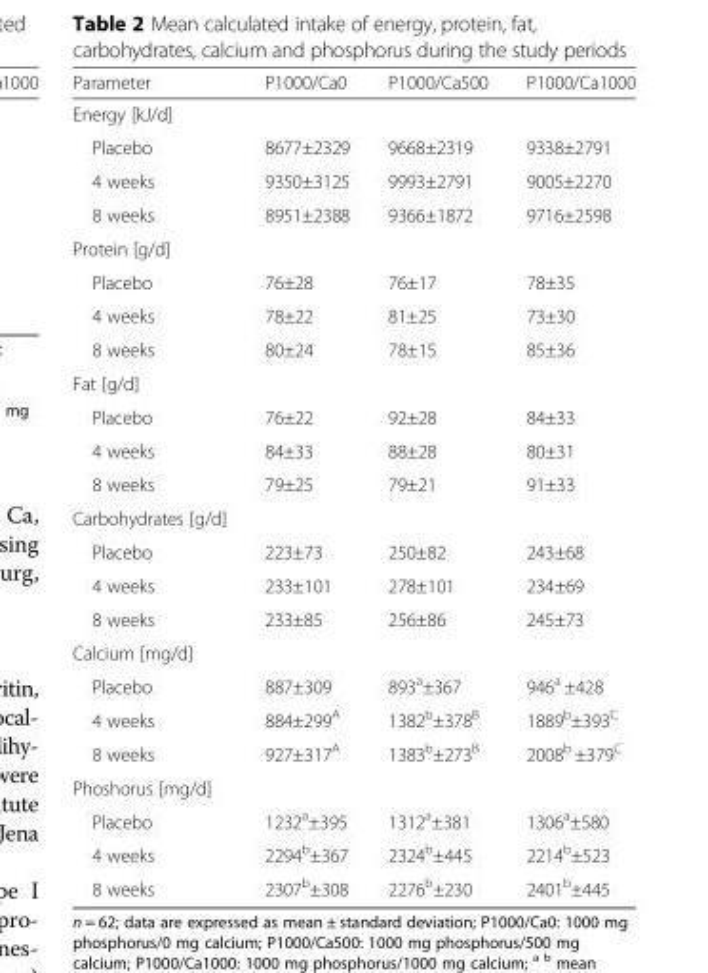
<table><thead><tr><td>Parameter</td><td>P1000/Ca0</td><td>P1000/Ca500</td><td>P1000/Ca1000</td></tr></thead><tbody><tr><td colspan="4">Energy [kJ/d]</td></tr><tr><td>Placebo</td><td>8677±2329</td><td>9668±2319</td><td>9338±2791</td></tr><tr><td>4 weeks</td><td>9350±3125</td><td>9993±2791</td><td>9005±2270</td></tr><tr><td>8 weeks</td><td>8951±2388</td><td>9366±1872</td><td>9716±2598</td></tr><tr><td colspan="4">Protein [g/d]</td></tr><tr><td>Placebo</td><td>76±28</td><td>76±17</td><td>78±35</td></tr><tr><td>4 weeks</td><td>78±22</td><td>81±25</td><td>73±30</td></tr><tr><td>8 weeks</td><td>80±24</td><td>78±15</td><td>85±36</td></tr><tr><td colspan="4">Fat [g/d]</td></tr><tr><td>Placebo</td><td>76±22</td><td>92±28</td><td>84±33</td></tr><tr><td>4 weeks</td><td>84±33</td><td>88±28</td><td>80±31</td></tr><tr><td>8 weeks</td><td>79±25</td><td>79±21</td><td>91±33</td></tr><tr><td colspan="4">Carbohydrates [g/d]</td></tr><tr><td>Placebo</td><td>223±73</td><td>250±82</td><td>243±68</td></tr><tr><td>4 weeks</td><td>233±101</td><td>278±101</td><td>234±69</td></tr><tr><td>8 weeks</td><td>233±85</td><td>256±86</td><td>245±73</td></tr><tr><td colspan="4">Calcium [mg/d]</td></tr><tr><td>Placebo</td><td>887±309</td><td>893<sup>a</sup>±367</td><td>946<sup>a</sup> ±428</td></tr><tr><td>4 weeks</td><td>884±299<sup>A</sup></td><td>1382<sup>b</sup>±378<sup>B</sup></td><td>1889<sup>b</sup>±393<sup>C</sup></td></tr><tr><td>8 weeks</td><td>927±317<sup>A</sup></td><td>1383<sup>b</sup>±273<sup>B</sup></td><td>2008<sup>b</sup> ±379<sup>C</sup></td></tr><tr><td colspan="4">Phoshorus [mg/d]</td></tr><tr><td>Placebo</td><td>1232<sup>a</sup>±395</td><td>1312<sup>a</sup>±381</td><td>1306<sup>a</sup>±580</td></tr><tr><td>4 weeks</td><td>2294<sup>b</sup>±367</td><td>2324<sup>b</sup>±445</td><td>2214<sup>b</sup>±523</td></tr><tr><td>8 weeks</td><td>2307<sup>b</sup>±308</td><td>2276<sup>b</sup>±230</td><td>2401<sup>b</sup>±445</td></tr></tbody></table>